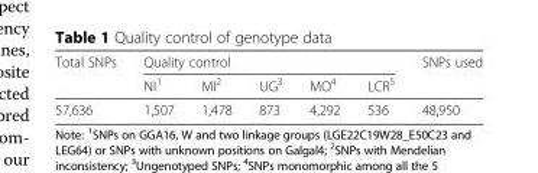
<table><thead><tr><td rowspan="2">Total SNPs</td><td colspan="5">Quality control</td><td rowspan="2">SNPs used</td></tr><tr><td>NI<sup>1</sup></td><td>MI<sup>2</sup></td><td>UG<sup>3</sup></td><td>MO<sup>4</sup></td><td>LCR<sup>5</sup></td></tr></thead><tbody><tr><td>57,636</td><td>1,507</td><td>1,478</td><td>873</td><td>4,292</td><td>536</td><td>48,950</td></tr></tbody></table>